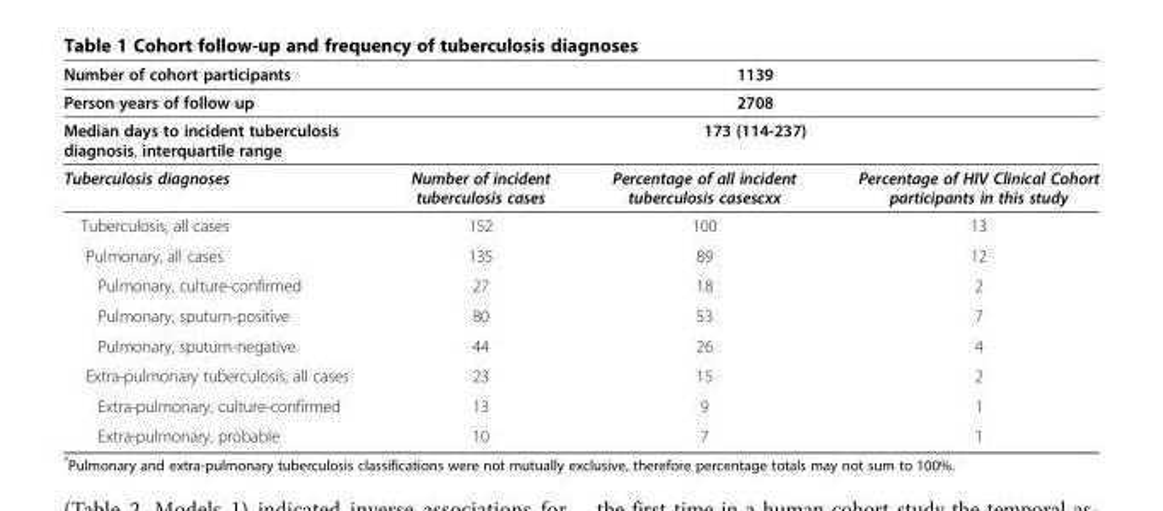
<table><thead><tr><td rowspan="4">Number of cohort participants Person-years of follow-up Median days to incident tuberculosis diagnosis, interquartile range Tuberculosis diagnoses</td><td rowspan="3" colspan="3">1139 2708 173 (114-237)</td></tr><tr></tr><tr></tr><tr><td>Number of incident tuberculosis cases</td><td>Percentage of all incident tuberculosis casescxx</td><td>Percentage of HIV Clinical Cohort participants in this study</td></tr></thead><tbody><tr><td>Tuberculosis, all cases</td><td>152</td><td>100</td><td>13</td></tr><tr><td>Pulmonary, all cases</td><td>135</td><td>89</td><td>12</td></tr><tr><td>Pulmonary, culture-confirmed</td><td>27</td><td>18</td><td>2</td></tr><tr><td>Pulmonary, sputum-positive</td><td>80</td><td>53</td><td>7</td></tr><tr><td>Pulmonary, sputum-negative</td><td>44</td><td>26</td><td>4</td></tr><tr><td>Extra-pulmonary tuberculosis, all cases</td><td>23</td><td>15</td><td>2</td></tr><tr><td>Extra-pulmonary, culture-confirmed</td><td>13</td><td>9</td><td>1</td></tr><tr><td>Extra-pulmonary, probable</td><td>10</td><td>7</td><td>1</td></tr></tbody></table>